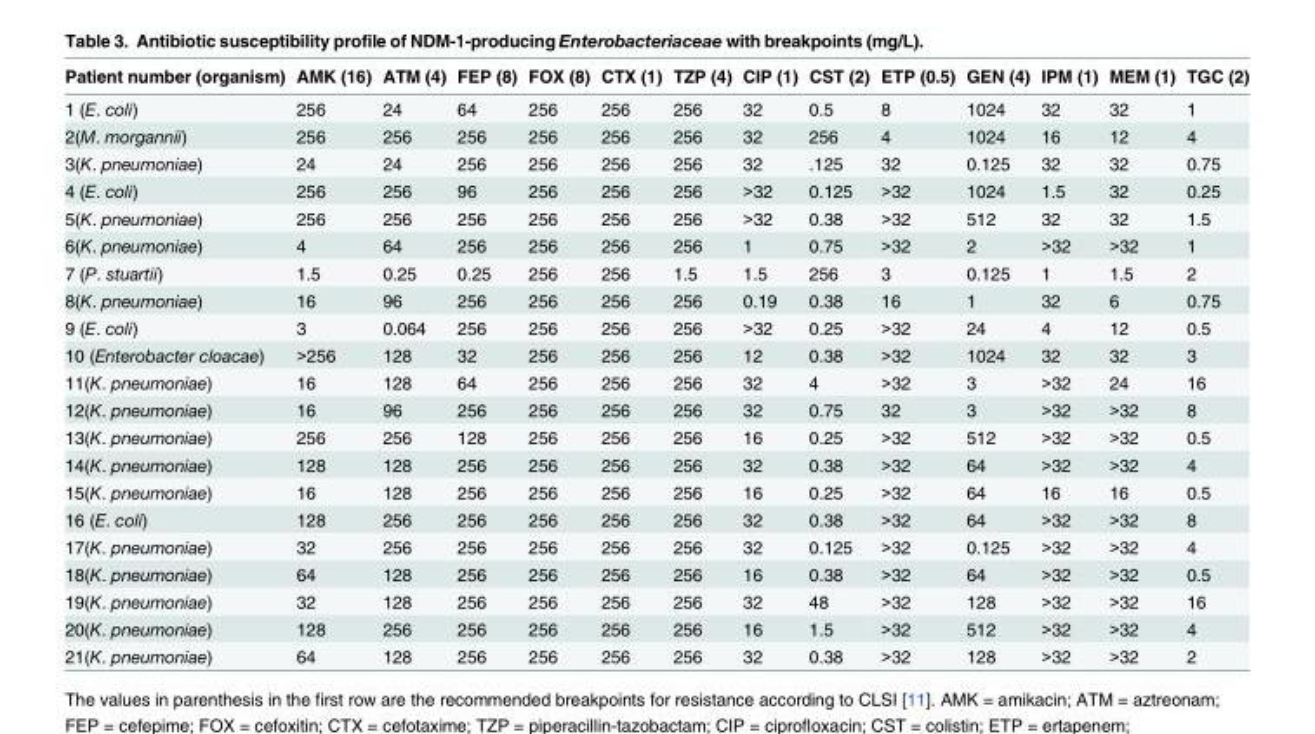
<table><thead><tr><td>Patient number (organism)</td><td>AMK (16)</td><td>ATM (4)</td><td>FEP (8)</td><td>FOX (8)</td><td>CTX (1)</td><td>TZP (4)</td><td>CIP (1)</td><td>CST (2)</td><td>ETP (0.5)</td><td>GEN (4)</td><td>IPM (1)</td><td>MEM (1)</td><td>TGC (2)</td></tr></thead><tbody><tr><td>1 (E. coli)</td><td>256</td><td>24</td><td>64</td><td>256</td><td>256</td><td>256</td><td>32</td><td>0.5</td><td>8</td><td>1024</td><td>32</td><td>32</td><td>1</td></tr><tr><td>2(M. morgannii)</td><td>256</td><td>256</td><td>256</td><td>256</td><td>256</td><td>256</td><td>32</td><td>256</td><td>4</td><td>1024</td><td>16</td><td>12</td><td>4</td></tr><tr><td>3(K. pneumoniae)</td><td>24</td><td>24</td><td>256</td><td>256</td><td>256</td><td>256</td><td>32</td><td>.125</td><td>32</td><td>0.125</td><td>32</td><td>32</td><td>0.75</td></tr><tr><td>4 (E. coli)</td><td>256</td><td>256</td><td>96</td><td>256</td><td>256</td><td>256</td><td>&gt;32</td><td>0.125</td><td>&gt;32</td><td>1024</td><td>1.5</td><td>32</td><td>0.25</td></tr><tr><td>5(K. pneumoniae)</td><td>256</td><td>256</td><td>256</td><td>256</td><td>256</td><td>256</td><td>&gt;32</td><td>0.38</td><td>&gt;32</td><td>512</td><td>32</td><td>32</td><td>1.5</td></tr><tr><td>6(K. pneumoniae)</td><td>4</td><td>64</td><td>256</td><td>256</td><td>256</td><td>256</td><td>1</td><td>0.75</td><td>&gt;32</td><td>2</td><td>&gt;32</td><td>&gt;32</td><td>1</td></tr><tr><td>7 (P. stuartii)</td><td>1.5</td><td>0.25</td><td>0.25</td><td>256</td><td>256</td><td>1.5</td><td>1.5</td><td>256</td><td>3</td><td>0.125</td><td>1</td><td>1.5</td><td>2</td></tr><tr><td>8(K. pneumoniae)</td><td>16</td><td>96</td><td>256</td><td>256</td><td>256</td><td>256</td><td>0.19</td><td>0.38</td><td>16</td><td>1</td><td>32</td><td>6</td><td>0.75</td></tr><tr><td>9 (E. coli)</td><td>3</td><td>0.064</td><td>256</td><td>256</td><td>256</td><td>256</td><td>&gt;32</td><td>0.25</td><td>&gt;32</td><td>24</td><td>4</td><td>12</td><td>0.5</td></tr><tr><td>10 (Enterobacter cloacae)</td><td>&gt;256</td><td>128</td><td>32</td><td>256</td><td>256</td><td>256</td><td>12</td><td>0.38</td><td>&gt;32</td><td>1024</td><td>32</td><td>32</td><td>3</td></tr><tr><td>11(K. pneumoniae)</td><td>16</td><td>128</td><td>64</td><td>256</td><td>256</td><td>256</td><td>32</td><td>4</td><td>&gt;32</td><td>3</td><td>&gt;32</td><td>24</td><td>16</td></tr><tr><td>12(K. pneumoniae)</td><td>16</td><td>96</td><td>256</td><td>256</td><td>256</td><td>256</td><td>32</td><td>0.75</td><td>32</td><td>3</td><td>&gt;32</td><td>&gt;32</td><td>8</td></tr><tr><td>13(K. pneumoniae)</td><td>256</td><td>256</td><td>128</td><td>256</td><td>256</td><td>256</td><td>16</td><td>0.25</td><td>&gt;32</td><td>512</td><td>&gt;32</td><td>&gt;32</td><td>0.5</td></tr><tr><td>14(K. pneumoniae)</td><td>128</td><td>128</td><td>256</td><td>256</td><td>256</td><td>256</td><td>32</td><td>0.38</td><td>&gt;32</td><td>64</td><td>&gt;32</td><td>&gt;32</td><td>4</td></tr><tr><td>15(K. pneumoniae)</td><td>16</td><td>128</td><td>256</td><td>256</td><td>256</td><td>256</td><td>16</td><td>0.25</td><td>&gt;32</td><td>64</td><td>16</td><td>16</td><td>0.5</td></tr><tr><td>16 (E. coli)</td><td>128</td><td>256</td><td>256</td><td>256</td><td>256</td><td>256</td><td>32</td><td>0.38</td><td>&gt;32</td><td>64</td><td>&gt;32</td><td>&gt;32</td><td>8</td></tr><tr><td>17(K. pneumoniae)</td><td>32</td><td>256</td><td>256</td><td>256</td><td>256</td><td>256</td><td>32</td><td>0.125</td><td>&gt;32</td><td>0.125</td><td>&gt;32</td><td>&gt;32</td><td>4</td></tr><tr><td>18(K. pneumoniae)</td><td>64</td><td>128</td><td>256</td><td>256</td><td>256</td><td>256</td><td>16</td><td>0.38</td><td>&gt;32</td><td>64</td><td>&gt;32</td><td>&gt;32</td><td>0.5</td></tr><tr><td>19(K. pneumoniae)</td><td>32</td><td>128</td><td>256</td><td>256</td><td>256</td><td>256</td><td>32</td><td>48</td><td>&gt;32</td><td>128</td><td>&gt;32</td><td>&gt;32</td><td>16</td></tr><tr><td>20(K. pneumoniae)</td><td>128</td><td>256</td><td>256</td><td>256</td><td>256</td><td>256</td><td>16</td><td>1.5</td><td>&gt;32</td><td>512</td><td>&gt;32</td><td>&gt;32</td><td>4</td></tr><tr><td>21(K. pneumoniae)</td><td>64</td><td>128</td><td>256</td><td>256</td><td>256</td><td>256</td><td>32</td><td>0.38</td><td>&gt;32</td><td>128</td><td>&gt;32</td><td>&gt;32</td><td>2</td></tr></tbody></table>